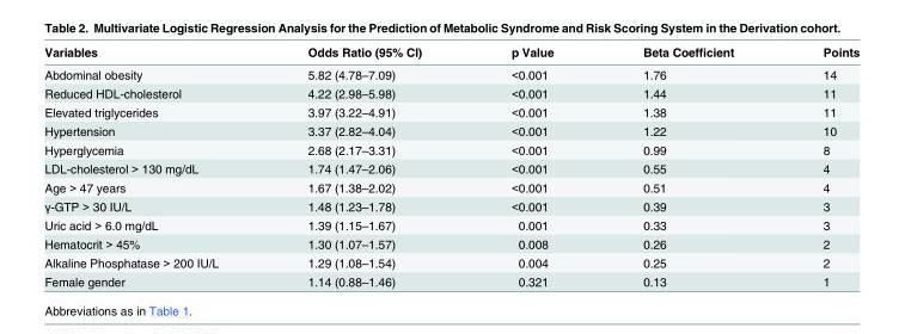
<table><thead><tr><td>Variables</td><td>Odds Ratio (95% CI)</td><td>p Value</td><td>Beta Coefficient</td><td>Points</td></tr></thead><tbody><tr><td>Abdominal obesity</td><td>5.82 (4.78–7.09)</td><td>&lt;0.001</td><td>1.76</td><td>14</td></tr><tr><td>Reduced HDL-cholesterol</td><td>4.22 (2.98–5.98)</td><td>&lt;0.001</td><td>1.44</td><td>11</td></tr><tr><td>Elevated triglycerides</td><td>3.97 (3.22–4.91)</td><td>&lt;0.001</td><td>1.38</td><td>11</td></tr><tr><td>Hypertension</td><td>3.37 (2.82–4.04)</td><td>&lt;0.001</td><td>1.22</td><td>10</td></tr><tr><td>Hyperglycemia</td><td>2.68 (2.17–3.31)</td><td>&lt;0.001</td><td>0.99</td><td>8</td></tr><tr><td>LDL-cholesterol &gt; 130 mg/dL</td><td>1.74 (1.47–2.06)</td><td>&lt;0.001</td><td>0.55</td><td>4</td></tr><tr><td>Age &gt; 47 years</td><td>1.67 (1.38–2.02)</td><td>&lt;0.001</td><td>0.51</td><td>4</td></tr><tr><td>γ-GTP &gt; 30 IU/L</td><td>1.48 (1.23–1.78)</td><td>&lt;0.001</td><td>0.39</td><td>3</td></tr><tr><td>Uric acid &gt; 6.0 mg/dL</td><td>1.39 (1.15–1.67)</td><td>0.001</td><td>0.33</td><td>3</td></tr><tr><td>Hematocrit &gt; 45%</td><td>1.30 (1.07–1.57)</td><td>0.008</td><td>0.26</td><td>2</td></tr><tr><td>Alkaline Phosphatase &gt; 200 IU/L</td><td>1.29 (1.08–1.54)</td><td>0.004</td><td>0.25</td><td>2</td></tr><tr><td>Female gender</td><td>1.14 (0.88–1.46)</td><td>0.321</td><td>0.13</td><td>1</td></tr></tbody></table>